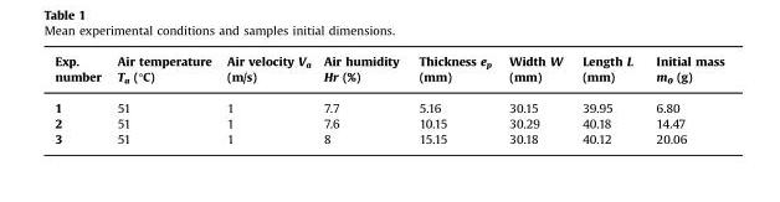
<table><thead><tr><td>Exp. number</td><td>Air temperature T<sub>a</sub> (°C)</td><td>Air velocity V<sub>a</sub> (m/s)</td><td>Air humidity Hr (%)</td><td>Thickness e<sub>p</sub> (mm)</td><td>Width W (mm)</td><td>Length L (mm)</td><td>Initial mass m<sub>0</sub> (g)</td></tr></thead><tbody><tr><td>1</td><td>51</td><td>1</td><td>7.7</td><td>5.16</td><td>30.15</td><td>39.95</td><td>6.80</td></tr><tr><td>2</td><td>51</td><td>1</td><td>7.6</td><td>10.15</td><td>30.29</td><td>40.18</td><td>14.47</td></tr><tr><td>3</td><td>51</td><td>1</td><td>8</td><td>15.15</td><td>30.18</td><td>40.12</td><td>20.06</td></tr></tbody></table>